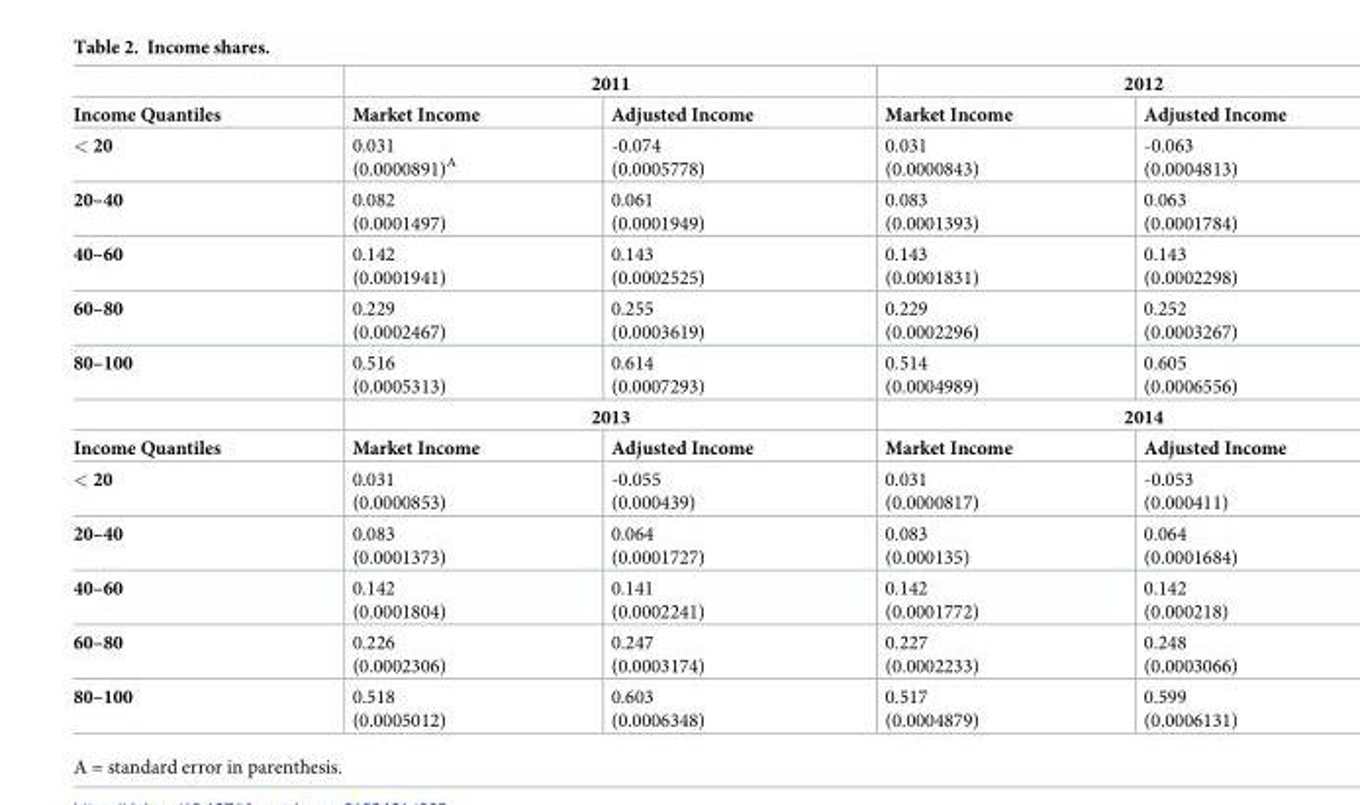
<table><thead><tr><td rowspan="2">Income Quantiles</td><td colspan="2">2011</td><td colspan="2">2012</td></tr><tr><td>Market Income</td><td>Adjusted Income</td><td>Market Income</td><td>Adjusted Income</td></tr></thead><tbody><tr><td>&lt; 20</td><td>0.031 (0.0000891)<sup>A</sup></td><td>-0.074 (0.0005778)</td><td>0.031 (0.0000843)</td><td>-0.063 (0.0004813)</td></tr><tr><td>20–40</td><td>0.082 (0.0001497)</td><td>0.061 (0.0001949)</td><td>0.083 (0.0001393)</td><td>0.063 (0.0001784)</td></tr><tr><td>40–60</td><td>0.142 (0.0001941)</td><td>0.143 (0.0002525)</td><td>0.143 (0.0001831)</td><td>0.143 (0.0002298)</td></tr><tr><td>60–80</td><td>0.229 (0.0002467)</td><td>0.255 (0.0003619)</td><td>0.229 (0.0002296)</td><td>0.252 (0.0003267)</td></tr><tr><td rowspan="2">80–100</td><td>0.516 (0.0005313)</td><td>0.614 (0.0007293)</td><td>0.514 (0.0004989)</td><td>0.605 (0.0006556)</td></tr><tr><td colspan="2">2013</td><td colspan="2">2014</td></tr><tr><td>Income Quantiles</td><td>Market Income</td><td>Adjusted Income</td><td>Market Income</td><td>Adjusted Income</td></tr><tr><td>&lt; 20</td><td>0.031 (0.0000853)</td><td>-0.055 (0.000439)</td><td>0.031 (0.0000817)</td><td>-0.053 (0.000411)</td></tr><tr><td>20–40</td><td>0.083 (0.0001373)</td><td>0.064 (0.0001727)</td><td>0.083 (0.000135)</td><td>0.064 (0.0001684)</td></tr><tr><td>40–60</td><td>0.142 (0.0001804)</td><td>0.141 (0.0002241)</td><td>0.142 (0.0001772)</td><td>0.142 (0.000218)</td></tr><tr><td>60–80</td><td>0.226 (0.0002306)</td><td>0.247 (0.0003174)</td><td>0.227 (0.0002233)</td><td>0.248 (0.0003066)</td></tr><tr><td>80–100</td><td>0.518 (0.0005012)</td><td>0.603 (0.0006348)</td><td>0.517 (0.0004879)</td><td>0.599 (0.0006131)</td></tr></tbody></table>